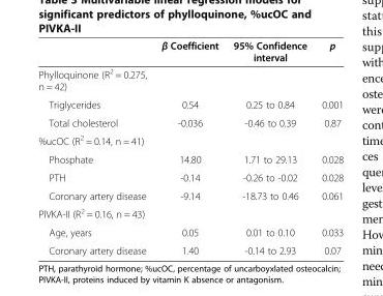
<table><thead><tr><td></td><td>β Coefficient</td><td>95% Confidence interval</td><td>p</td></tr></thead><tbody><tr><td colspan="4">Phylloquinone (R<sup>2</sup> = 0.275, n = 42)</td></tr><tr><td>Triglycerides</td><td>0.54</td><td>0.25 to 0.84</td><td>0.001</td></tr><tr><td>Total cholesterol</td><td>-0.036</td><td>-0.46 to 0.39</td><td>0.87</td></tr><tr><td colspan="4">%ucOC (R<sup>2</sup> = 0.14, n = 41)</td></tr><tr><td>Phosphate</td><td>14.80</td><td>1.71 to 29.13</td><td>0.028</td></tr><tr><td>PTH</td><td>-0.14</td><td>-0.26 to -0.02</td><td>0.028</td></tr><tr><td>Coronary artery disease</td><td>-9.14</td><td>-18.73 to 0.46</td><td>0.061</td></tr><tr><td colspan="4">PIVKA-II (R<sup>2</sup> = 0.16, n = 43)</td></tr><tr><td>Age, years</td><td>0.05</td><td>0.01 to 0.10</td><td>0.033</td></tr><tr><td>Coronary artery disease</td><td>1.40</td><td>-0.14 to 2.93</td><td>0.07</td></tr></tbody></table>